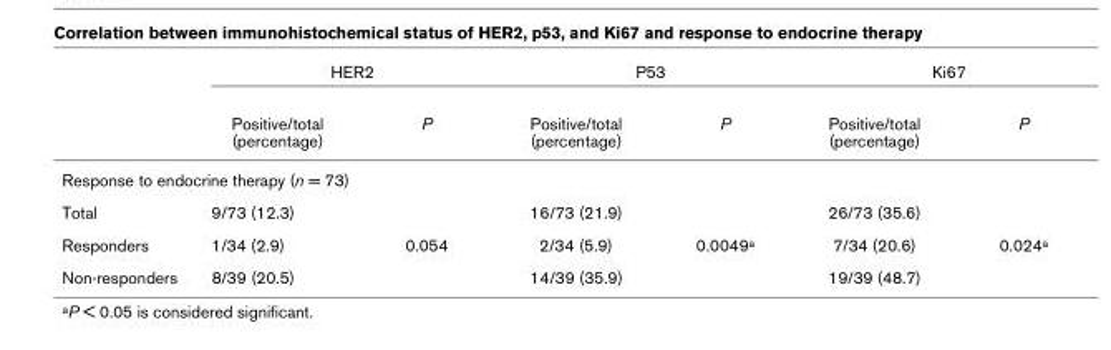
<table><thead><tr><td rowspan="2"></td><td colspan="2">HER2</td><td colspan="2">P53</td><td colspan="2">Ki67</td></tr><tr><td>Positive/total (percentage)</td><td>P</td><td>Positive/total (percentage)</td><td>P</td><td>Positive/total (percentage)</td><td>P</td></tr></thead><tbody><tr><td colspan="7">Response to endocrine therapy (n = 73)</td></tr><tr><td>Total</td><td>9/73 (12.3)</td><td></td><td>16/73 (21.9)</td><td></td><td>26/73 (35.6)</td><td></td></tr><tr><td>Responders</td><td>1/34 (2.9)</td><td>0.054</td><td>2/34 (5.9)</td><td>0.0049a</td><td>7/34 (20.6)</td><td>0.024a</td></tr><tr><td>Non-responders</td><td>8/39 (20.5)</td><td></td><td>14/39 (35.9)</td><td></td><td>19/39 (48.7)</td><td></td></tr></tbody></table>